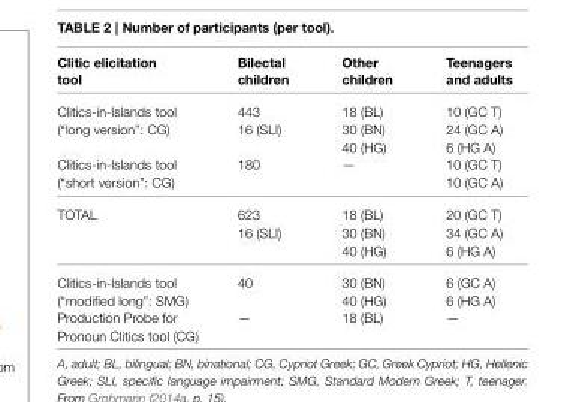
<table><thead><tr><td>Clitic elicitation tool</td><td>Bilectal children</td><td>Other children</td><td>Teenagers and adults</td></tr></thead><tbody><tr><td>Clitics-in-Islands tool (“long version”: CG)</td><td>443 16 (SLI)</td><td>18 (BL) 30 (BN) 40 (HG)</td><td>10 (GC T) 24 (GC A) 6 (HG A)</td></tr><tr><td>Clitics-in-Islands tool (“short version”: CG)</td><td>180</td><td>—</td><td>10 (GC T) 10 (GC A)</td></tr><tr><td>TOTAL</td><td>623 16 (SLI)</td><td>18 (BL) 30 (BN) 40 (HG)</td><td>20 (GC T) 34 (GC A) 6 (HG A)</td></tr><tr><td>Clitics-in-Islands tool (“modified long”: SMG)</td><td>40</td><td>30 (BN) 40 (HG)</td><td>6 (GC A) 6 (HG A)</td></tr><tr><td>Production Probe for Pronoun Clitics tool (CG)</td><td>—</td><td>18 (BL)</td><td>—</td></tr></tbody></table>